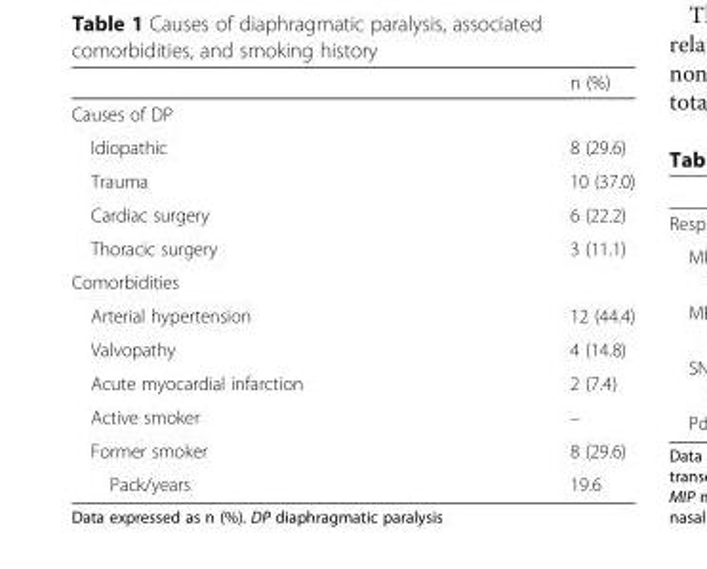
<table><thead><tr><td></td><td>n (%)</td></tr></thead><tbody><tr><td colspan="2">Causes of DP</td></tr><tr><td>Idiopathic</td><td>8 (29.6)</td></tr><tr><td>Trauma</td><td>10 (37.0)</td></tr><tr><td>Cardiac surgery</td><td>6 (22.2)</td></tr><tr><td>Thoracic surgery</td><td>3 (11.1)</td></tr><tr><td colspan="2">Comorbidities</td></tr><tr><td>Arterial hypertension</td><td>12 (44.4)</td></tr><tr><td>Valvopathy</td><td>4 (14.8)</td></tr><tr><td>Acute myocardial infarction</td><td>2 (7.4)</td></tr><tr><td>Active smoker</td><td>–</td></tr><tr><td>Former smoker</td><td>8 (29.6)</td></tr><tr><td>Pack/years</td><td>19.6</td></tr></tbody></table>